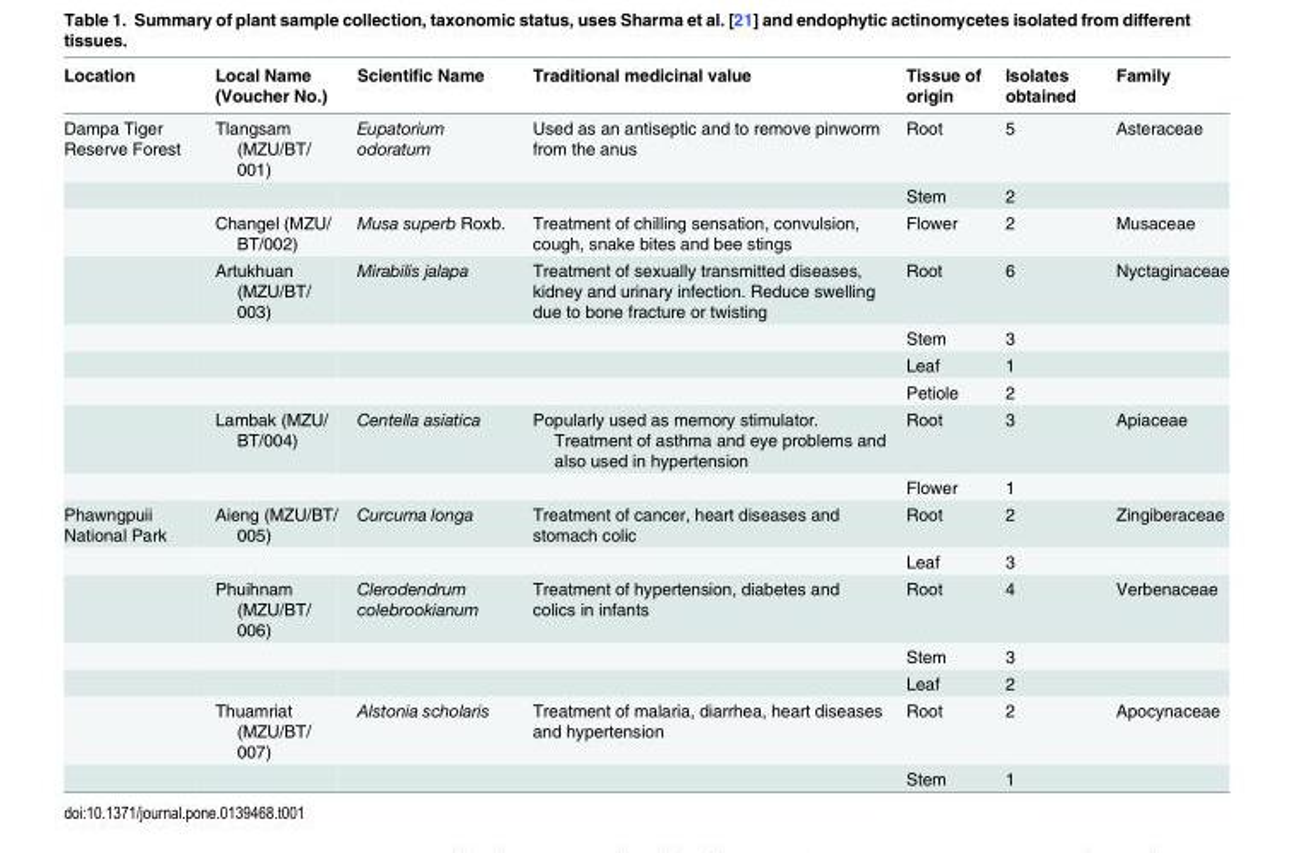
<table><thead><tr><td>Location</td><td>Local Name (Voucher No.)</td><td>Scientific Name</td><td>Traditional medicinal value</td><td>Tissue of origin</td><td>Isolates obtained</td><td>Family</td></tr></thead><tbody><tr><td rowspan="9">Dampa Tiger Reserve Forest</td><td>Tlangsam (MZU/BT/ 001)</td><td>Eupatorium odoratum</td><td>Used as an antiseptic and to remove pinworm from the anus</td><td>Root</td><td>5</td><td>Asteraceae</td></tr><tr><td></td><td></td><td></td><td>Stem</td><td>2</td><td></td></tr><tr><td>Changel (MZU/ BT/002)</td><td>Musa superb Roxb.</td><td>Treatment of chilling sensation, convulsion, cough, snake bites and bee stings</td><td>Flower</td><td>2</td><td>Musaceae</td></tr><tr><td>Artukhuan (MZU/BT/ 003)</td><td>Mirabilis jalapa</td><td>Treatment of sexually transmitted diseases, kidney and urinary infection. Reduce swelling due to bone fracture or twisting</td><td>Root</td><td>6</td><td>Nyctaginaceae</td></tr><tr><td></td><td></td><td></td><td>Stem</td><td>3</td><td></td></tr><tr><td></td><td></td><td></td><td>Leaf</td><td>1</td><td></td></tr><tr><td></td><td></td><td></td><td>Petiole</td><td>2</td><td></td></tr><tr><td>Lambak (MZU/ BT/004)</td><td>Centella asiatica</td><td>Popularly used as memory stimulator. Treatment of asthma and eye problems and also used in hypertension</td><td>Root</td><td>3</td><td>Apiaceae</td></tr><tr><td></td><td></td><td></td><td>Flower</td><td>1</td><td></td></tr><tr><td rowspan="7">Phawngpuii National Park</td><td>Aieng (MZU/BT/ 005)</td><td>Curcuma longa</td><td>Treatment of cancer, heart diseases and stomach colic</td><td>Root</td><td>2</td><td>Zingiberaceae</td></tr><tr><td></td><td></td><td></td><td>Leaf</td><td>3</td><td></td></tr><tr><td>Phuihnam (MZU/BT/ 006)</td><td>Clerodendrum colebrookianum</td><td>Treatment of hypertension, diabetes and colics in infants</td><td>Root</td><td>4</td><td>Verbenaceae</td></tr><tr><td></td><td></td><td></td><td>Stem</td><td>3</td><td></td></tr><tr><td></td><td></td><td></td><td>Leaf</td><td>2</td><td></td></tr><tr><td>Thuamriat (MZU/BT/ 007)</td><td>Alstonia scholaris</td><td>Treatment of malaria, diarrhea, heart diseases and hypertension</td><td>Root</td><td>2</td><td>Apocynaceae</td></tr><tr><td></td><td></td><td></td><td>Stem</td><td>1</td><td></td></tr></tbody></table>